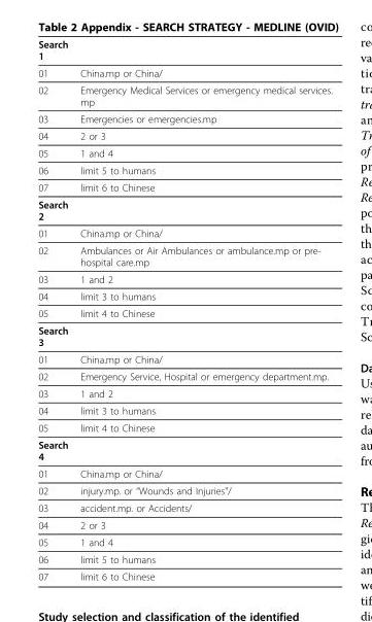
<table><thead><tr><td>Search 1</td><td></td></tr></thead><tbody><tr><td>01</td><td>China.mp or China/</td></tr><tr><td>02</td><td>Emergency Medical Services or emergency medical services. mp</td></tr><tr><td>03</td><td>Emergencies or emergencies.mp</td></tr><tr><td>04</td><td>2 or 3</td></tr><tr><td>05</td><td>1 and 4</td></tr><tr><td>06</td><td>limit 5 to humans</td></tr><tr><td>07</td><td>limit 6 to Chinese</td></tr><tr><td colspan="2">Search 2</td></tr><tr><td>01</td><td>China.mp or China/</td></tr><tr><td>02</td><td>Ambulances or Air Ambulances or ambulance.mp or pre- hospital care.mp</td></tr><tr><td>03</td><td>1 and 2</td></tr><tr><td>04</td><td>limit 3 to humans</td></tr><tr><td>05</td><td>limit 4 to Chinese</td></tr><tr><td colspan="2">Search 3</td></tr><tr><td>01</td><td>China.mp or China/</td></tr><tr><td>02</td><td>Emergency Service, Hospital or emergency department.mp.</td></tr><tr><td>03</td><td>1 and 2</td></tr><tr><td>04</td><td>limit 3 to humans</td></tr><tr><td>05</td><td>limit 4 to Chinese</td></tr><tr><td colspan="2">Search 4</td></tr><tr><td>01</td><td>China.mp or China/</td></tr><tr><td>02</td><td>injury.mp. or “Wounds and Injuries&quot;/</td></tr><tr><td>03</td><td>accident.mp. or Accidents/</td></tr><tr><td>04</td><td>2 or 3</td></tr><tr><td>05</td><td>1 and 4</td></tr><tr><td>06</td><td>limit 5 to humans</td></tr><tr><td>07</td><td>limit 6 to Chinese</td></tr></tbody></table>